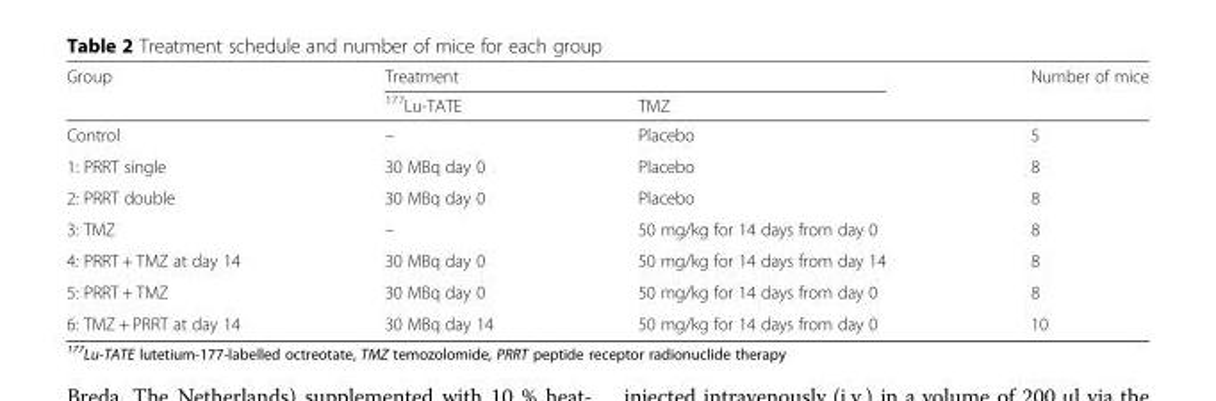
<table><thead><tr><td rowspan="3">Group Control</td><td colspan="2">Treatment</td><td>Number of mice</td></tr><tr><td rowspan="2"><sup>177</sup>Lu-TATE –</td><td colspan="2">TMZ</td></tr><tr><td>Placebo</td><td>5</td></tr></thead><tbody><tr><td>1: PRRT single</td><td>30 MBq day 0</td><td>Placebo</td><td>8</td></tr><tr><td>2: PRRT double</td><td>30 MBq day 0</td><td>Placebo</td><td>8</td></tr><tr><td>3: TMZ</td><td>–</td><td>50 mg/kg for 14 days from day 0</td><td>8</td></tr><tr><td>4: PRRT + TMZ at day 14</td><td>30 MBq day 0</td><td>50 mg/kg for 14 days from day 14</td><td>8</td></tr><tr><td>5: PRRT + TMZ</td><td>30 MBq day 0</td><td>50 mg/kg for 14 days from day 0</td><td>8</td></tr><tr><td>6: TMZ + PRRT at day 14</td><td>30 MBq day 14</td><td>50 mg/kg for 14 days from day 0</td><td>10</td></tr></tbody></table>